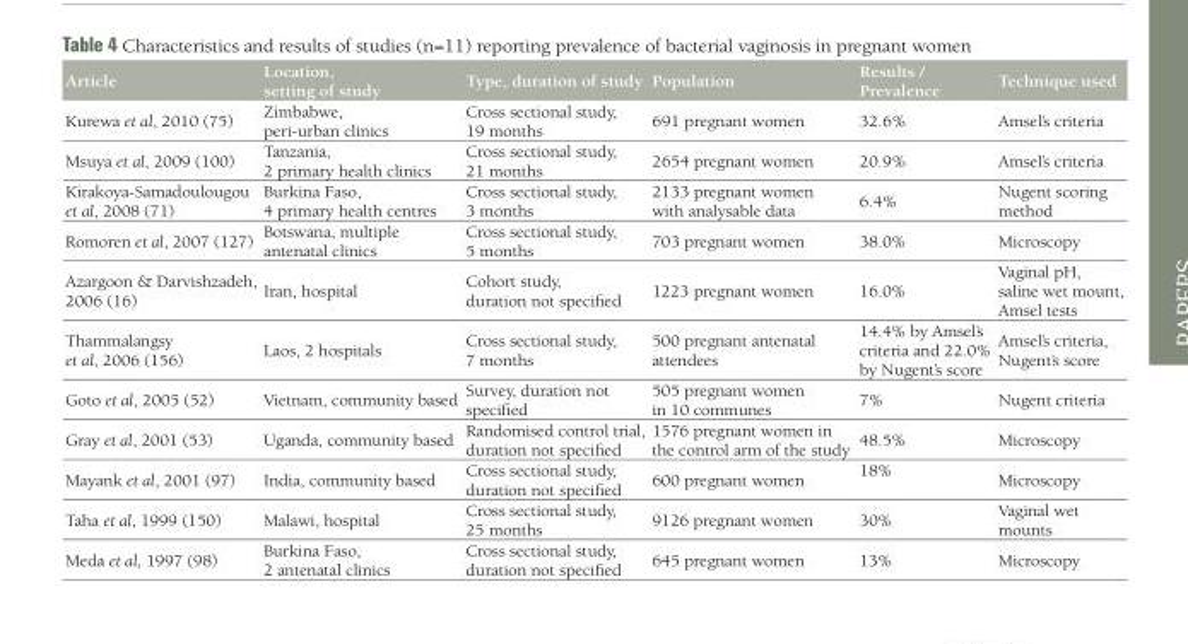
<table><thead><tr><td>Article</td><td>Location, setting of study</td><td>Type, duration of study</td><td>Population</td><td>Results / Prevalence</td><td>Technique used</td></tr></thead><tbody><tr><td>Kurewa et al, 2010 (75)</td><td>Zimbabwe, peri-urban clinics</td><td>Cross sectional study, 19 months</td><td>691 pregnant women</td><td>32.6%</td><td>Amsel’s criteria</td></tr><tr><td>Msuya et al, 2009 (100)</td><td>Tanzania, 2 primary health clinics</td><td>Cross sectional study, 21 months</td><td>2654 pregnant women</td><td>20.9%</td><td>Amsel’s criteria</td></tr><tr><td>Kirakoya-Samadoulougou et al, 2008 (71)</td><td>Burkina Faso, 4 primary health centres</td><td>Cross sectional study, 3 months</td><td>2133 pregnant women with analysable data</td><td>6.4%</td><td>Nugent scoring method</td></tr><tr><td>Romoren et al, 2007 (127)</td><td>Botswana, multiple antenatal clinics</td><td>Cross sectional study, 5 months</td><td>703 pregnant women</td><td>38.0%</td><td>Microscopy</td></tr><tr><td>Azargoon &amp; Darvishzadeh, 2006 (16)</td><td>Iran, hospital</td><td>Cohort study, duration not specified</td><td>1223 pregnant women</td><td>16.0%</td><td>Vaginal pH, saline wet mount, Amsel tests</td></tr><tr><td>Thammalangsy et al, 2006 (156)</td><td>Laos, 2 hospitals</td><td>Cross sectional study, 7 months</td><td>500 pregnant antenatal attendees</td><td>14.4% by Amsel’s criteria and 22.0% by Nugent’s score</td><td>Amsel’s criteria, Nugent’s score</td></tr><tr><td>Goto et al, 2005 (52)</td><td>Vietnam, community based</td><td>Survey, duration not specified</td><td>505 pregnant women in 10 communes</td><td>7%</td><td>Nugent criteria</td></tr><tr><td>Gray et al, 2001 (53)</td><td>Uganda, community based</td><td>Randomised control trial, duration not specified</td><td>1576 pregnant women in the control arm of the study</td><td>48.5%</td><td>Microscopy</td></tr><tr><td>Mayank et al, 2001 (97)</td><td>India, community based</td><td>Cross sectional study, duration not specified</td><td>600 pregnant women</td><td>18%</td><td>Microscopy</td></tr><tr><td>Taha et al, 1999 (150)</td><td>Malawi, hospital</td><td>Cross sectional study, 25 months</td><td>9126 pregnant women</td><td>30%</td><td>Vaginal wet mounts</td></tr><tr><td>Meda et al, 1997 (98)</td><td>Burkina Faso, 2 antenatal clinics</td><td>Cross sectional study, duration not specified</td><td>645 pregnant women</td><td>13%</td><td>Microscopy</td></tr></tbody></table>